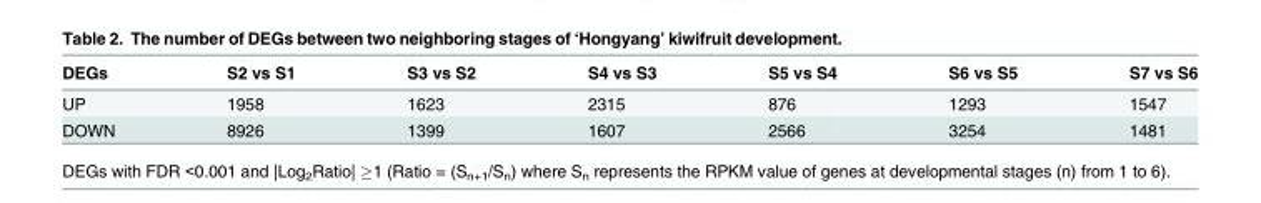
<table><thead><tr><td>DEGs</td><td>S2 vs S1</td><td>S3 vs S2</td><td>S4 vs S3</td><td>S5 vs S4</td><td>S6 vs S5</td><td>S7 vs S6</td></tr></thead><tbody><tr><td>UP</td><td>1958</td><td>1623</td><td>2315</td><td>876</td><td>1293</td><td>1547</td></tr><tr><td>DOWN</td><td>8926</td><td>1399</td><td>1607</td><td>2566</td><td>3254</td><td>1481</td></tr></tbody></table>